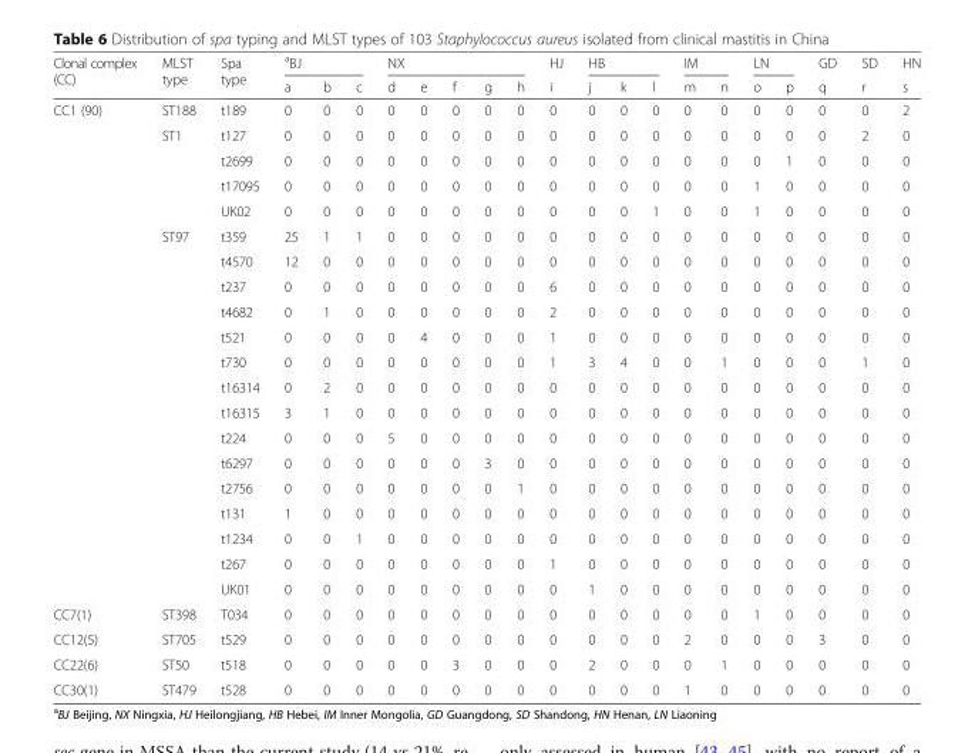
<table><thead><tr><td rowspan="2">Clonal complex (CC)</td><td rowspan="2">MLST type</td><td rowspan="2">Spa type</td><td colspan="3"><sup>a</sup>BJ</td><td colspan="5">NX</td><td rowspan="2">HJ i</td><td colspan="3">HB</td><td colspan="2">IM</td><td colspan="2">LN</td><td rowspan="2">GD q</td><td rowspan="2">SD r</td><td rowspan="2">HN s</td></tr><tr><td>a</td><td>b</td><td>c</td><td>d</td><td>e</td><td>f</td><td>g</td><td>h</td><td>j</td><td>k</td><td>l</td><td>m</td><td>n</td><td>o</td><td>p</td></tr></thead><tbody><tr><td rowspan="20">CC1 (90)</td><td>ST188</td><td>t189</td><td>0</td><td>0</td><td>0</td><td>0</td><td>0</td><td>0</td><td>0</td><td>0</td><td>0</td><td>0</td><td>0</td><td>0</td><td>0</td><td>0</td><td>0</td><td>0</td><td>0</td><td>0</td><td>2</td></tr><tr><td rowspan="4">ST1</td><td>t127</td><td>0</td><td>0</td><td>0</td><td>0</td><td>0</td><td>0</td><td>0</td><td>0</td><td>0</td><td>0</td><td>0</td><td>0</td><td>0</td><td>0</td><td>0</td><td>0</td><td>0</td><td>2</td><td>0</td></tr><tr><td>t2699</td><td>0</td><td>0</td><td>0</td><td>0</td><td>0</td><td>0</td><td>0</td><td>0</td><td>0</td><td>0</td><td>0</td><td>0</td><td>0</td><td>0</td><td>0</td><td>1</td><td>0</td><td>0</td><td>0</td></tr><tr><td>t17095</td><td>0</td><td>0</td><td>0</td><td>0</td><td>0</td><td>0</td><td>0</td><td>0</td><td>0</td><td>0</td><td>0</td><td>0</td><td>0</td><td>0</td><td>1</td><td>0</td><td>0</td><td>0</td><td>0</td></tr><tr><td>UK02</td><td>0</td><td>0</td><td>0</td><td>0</td><td>0</td><td>0</td><td>0</td><td>0</td><td>0</td><td>0</td><td>0</td><td>1</td><td>0</td><td>0</td><td>1</td><td>0</td><td>0</td><td>0</td><td>0</td></tr><tr><td rowspan="15">ST97</td><td>t359</td><td>25</td><td>1</td><td>1</td><td>0</td><td>0</td><td>0</td><td>0</td><td>0</td><td>0</td><td>0</td><td>0</td><td>0</td><td>0</td><td>0</td><td>0</td><td>0</td><td>0</td><td>0</td><td>0</td></tr><tr><td>t4570</td><td>12</td><td>0</td><td>0</td><td>0</td><td>0</td><td>0</td><td>0</td><td>0</td><td>0</td><td>0</td><td>0</td><td>0</td><td>0</td><td>0</td><td>0</td><td>0</td><td>0</td><td>0</td><td>0</td></tr><tr><td>t237</td><td>0</td><td>0</td><td>0</td><td>0</td><td>0</td><td>0</td><td>0</td><td>0</td><td>6</td><td>0</td><td>0</td><td>0</td><td>0</td><td>0</td><td>0</td><td>0</td><td>0</td><td>0</td><td>0</td></tr><tr><td>t4682</td><td>0</td><td>1</td><td>0</td><td>0</td><td>0</td><td>0</td><td>0</td><td>0</td><td>2</td><td>0</td><td>0</td><td>0</td><td>0</td><td>0</td><td>0</td><td>0</td><td>0</td><td>0</td><td>0</td></tr><tr><td>t521</td><td>0</td><td>0</td><td>0</td><td>0</td><td>4</td><td>0</td><td>0</td><td>0</td><td>1</td><td>0</td><td>0</td><td>0</td><td>0</td><td>0</td><td>0</td><td>0</td><td>0</td><td>0</td><td>0</td></tr><tr><td>t730</td><td>0</td><td>0</td><td>0</td><td>0</td><td>0</td><td>0</td><td>0</td><td>0</td><td>1</td><td>3</td><td>4</td><td>0</td><td>0</td><td>1</td><td>0</td><td>0</td><td>0</td><td>1</td><td>0</td></tr><tr><td>t16314</td><td>0</td><td>2</td><td>0</td><td>0</td><td>0</td><td>0</td><td>0</td><td>0</td><td>0</td><td>0</td><td>0</td><td>0</td><td>0</td><td>0</td><td>0</td><td>0</td><td>0</td><td>0</td><td>0</td></tr><tr><td>t16315</td><td>3</td><td>1</td><td>0</td><td>0</td><td>0</td><td>0</td><td>0</td><td>0</td><td>0</td><td>0</td><td>0</td><td>0</td><td>0</td><td>0</td><td>0</td><td>0</td><td>0</td><td>0</td><td>0</td></tr><tr><td>t224</td><td>0</td><td>0</td><td>0</td><td>5</td><td>0</td><td>0</td><td>0</td><td>0</td><td>0</td><td>0</td><td>0</td><td>0</td><td>0</td><td>0</td><td>0</td><td>0</td><td>0</td><td>0</td><td>0</td></tr><tr><td>t6297</td><td>0</td><td>0</td><td>0</td><td>0</td><td>0</td><td>0</td><td>3</td><td>0</td><td>0</td><td>0</td><td>0</td><td>0</td><td>0</td><td>0</td><td>0</td><td>0</td><td>0</td><td>0</td><td>0</td></tr><tr><td>t2756</td><td>0</td><td>0</td><td>0</td><td>0</td><td>0</td><td>0</td><td>0</td><td>1</td><td>0</td><td>0</td><td>0</td><td>0</td><td>0</td><td>0</td><td>0</td><td>0</td><td>0</td><td>0</td><td>0</td></tr><tr><td>t131</td><td>1</td><td>0</td><td>0</td><td>0</td><td>0</td><td>0</td><td>0</td><td>0</td><td>0</td><td>0</td><td>0</td><td>0</td><td>0</td><td>0</td><td>0</td><td>0</td><td>0</td><td>0</td><td>0</td></tr><tr><td>t1234</td><td>0</td><td>0</td><td>1</td><td>0</td><td>0</td><td>0</td><td>0</td><td>0</td><td>0</td><td>0</td><td>0</td><td>0</td><td>0</td><td>0</td><td>0</td><td>0</td><td>0</td><td>0</td><td>0</td></tr><tr><td>t267</td><td>0</td><td>0</td><td>0</td><td>0</td><td>0</td><td>0</td><td>0</td><td>0</td><td>1</td><td>0</td><td>0</td><td>0</td><td>0</td><td>0</td><td>0</td><td>0</td><td>0</td><td>0</td><td>0</td></tr><tr><td>UK01</td><td>0</td><td>0</td><td>0</td><td>0</td><td>0</td><td>0</td><td>0</td><td>0</td><td>0</td><td>1</td><td>0</td><td>0</td><td>0</td><td>0</td><td>0</td><td>0</td><td>0</td><td>0</td><td>0</td></tr><tr><td>CC7(1)</td><td>ST398</td><td>T034</td><td>0</td><td>0</td><td>0</td><td>0</td><td>0</td><td>0</td><td>0</td><td>0</td><td>0</td><td>0</td><td>0</td><td>0</td><td>0</td><td>0</td><td>1</td><td>0</td><td>0</td><td>0</td><td>0</td></tr><tr><td>CC12(5)</td><td>ST705</td><td>t529</td><td>0</td><td>0</td><td>0</td><td>0</td><td>0</td><td>0</td><td>0</td><td>0</td><td>0</td><td>0</td><td>0</td><td>0</td><td>2</td><td>0</td><td>0</td><td>0</td><td>3</td><td>0</td><td>0</td></tr><tr><td>CC22(6)</td><td>ST50</td><td>t518</td><td>0</td><td>0</td><td>0</td><td>0</td><td>0</td><td>3</td><td>0</td><td>0</td><td>0</td><td>2</td><td>0</td><td>0</td><td>0</td><td>1</td><td>0</td><td>0</td><td>0</td><td>0</td><td>0</td></tr><tr><td>CC30(1)</td><td>ST479</td><td>t528</td><td>0</td><td>0</td><td>0</td><td>0</td><td>0</td><td>0</td><td>0</td><td>0</td><td>0</td><td>0</td><td>0</td><td>0</td><td>1</td><td>0</td><td>0</td><td>0</td><td>0</td><td>0</td><td>0</td></tr></tbody></table>